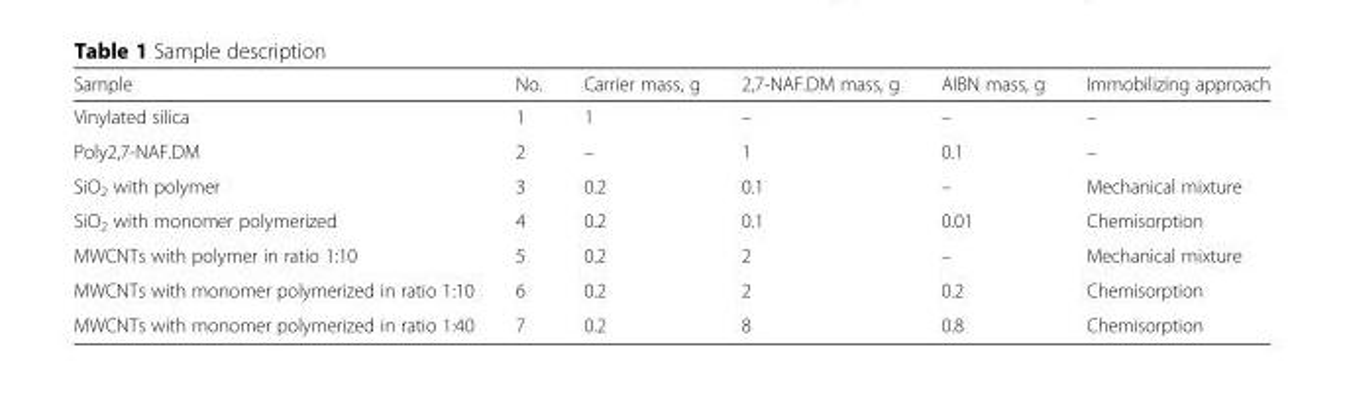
<table><thead><tr><td>Sample</td><td>No.</td><td>Carrier mass, g</td><td>2,7-NAF.DM mass, g</td><td>AIBN mass, g</td><td>Immobilizing approach</td></tr></thead><tbody><tr><td>Vinylated silica</td><td>1</td><td>1</td><td>–</td><td>–</td><td>–</td></tr><tr><td>Poly2,7-NAF.DM</td><td>2</td><td>–</td><td>1</td><td>0.1</td><td>–</td></tr><tr><td>SiO<sub>2</sub> with polymer</td><td>3</td><td>0.2</td><td>0.1</td><td>–</td><td>Mechanical mixture</td></tr><tr><td>SiO<sub>2</sub> with monomer polymerized</td><td>4</td><td>0.2</td><td>0.1</td><td>0.01</td><td>Chemisorption</td></tr><tr><td>MWCNTs with polymer in ratio 1:10</td><td>5</td><td>0.2</td><td>2</td><td>–</td><td>Mechanical mixture</td></tr><tr><td>MWCNTs with monomer polymerized in ratio 1:10</td><td>6</td><td>0.2</td><td>2</td><td>0.2</td><td>Chemisorption</td></tr><tr><td>MWCNTs with monomer polymerized in ratio 1:40</td><td>7</td><td>0.2</td><td>8</td><td>0.8</td><td>Chemisorption</td></tr></tbody></table>